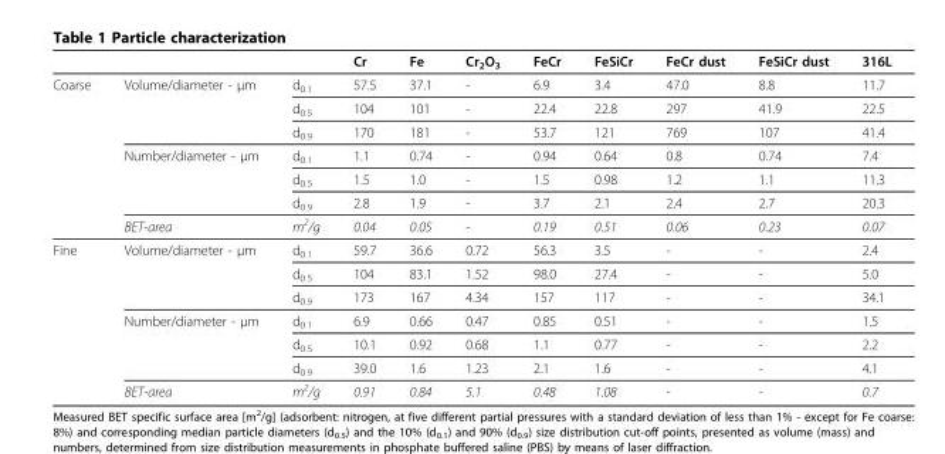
<table><thead><tr><td></td><td></td><td></td><td>Cr</td><td>Fe</td><td>Cr<sub>2</sub>O<sub>3</sub></td><td>FeCr</td><td>FeSiCr</td><td>FeCr dust</td><td>FeSiCr dust</td><td>316L</td></tr></thead><tbody><tr><td rowspan="7">Coarse</td><td>Volume/diameter - μm</td><td>d<sub>0.1</sub></td><td>57.5</td><td>37.1</td><td>-</td><td>6.9</td><td>3.4</td><td>47.0</td><td>8.8</td><td>11.7</td></tr><tr><td></td><td>d<sub>0.5</sub></td><td>104</td><td>101</td><td>-</td><td>22.4</td><td>22.8</td><td>297</td><td>41.9</td><td>22.5</td></tr><tr><td></td><td>d<sub>0.9</sub></td><td>170</td><td>181</td><td>-</td><td>53.7</td><td>121</td><td>769</td><td>107</td><td>41.4</td></tr><tr><td>Number/diameter - μm</td><td>d<sub>0.1</sub></td><td>1.1</td><td>0.74</td><td>-</td><td>0.94</td><td>0.64</td><td>0.8</td><td>0.74</td><td>7.4</td></tr><tr><td></td><td>d<sub>0.5</sub></td><td>1.5</td><td>1.0</td><td>-</td><td>1.5</td><td>0.98</td><td>1.2</td><td>1.1</td><td>11.3</td></tr><tr><td></td><td>d<sub>0.9</sub></td><td>2.8</td><td>1.9</td><td>-</td><td>3.7</td><td>2.1</td><td>2.4</td><td>2.7</td><td>20.3</td></tr><tr><td>BET-area</td><td>m<sup>2</sup>/g</td><td>0.04</td><td>0.05</td><td>-</td><td>0.19</td><td>0.51</td><td>0.06</td><td>0.23</td><td>0.07</td></tr><tr><td rowspan="7">Fine</td><td>Volume/diameter - μm</td><td>d<sub>0.1</sub></td><td>59.7</td><td>36.6</td><td>0.72</td><td>56.3</td><td>3.5</td><td>-</td><td>-</td><td>2.4</td></tr><tr><td></td><td>d<sub>0.5</sub></td><td>104</td><td>83.1</td><td>1.52</td><td>98.0</td><td>27.4</td><td>-</td><td>-</td><td>5.0</td></tr><tr><td></td><td>d<sub>0.9</sub></td><td>173</td><td>167</td><td>4.34</td><td>157</td><td>117</td><td>-</td><td>-</td><td>34.1</td></tr><tr><td>Number/diameter - μm</td><td>d<sub>0.1</sub></td><td>6.9</td><td>0.66</td><td>0.47</td><td>0.85</td><td>0.51</td><td>-</td><td>-</td><td>1.5</td></tr><tr><td></td><td>d<sub>0.5</sub></td><td>10.1</td><td>0.92</td><td>0.68</td><td>1.1</td><td>0.77</td><td>-</td><td>-</td><td>2.2</td></tr><tr><td></td><td>d<sub>0.9</sub></td><td>39.0</td><td>1.6</td><td>1.23</td><td>2.1</td><td>1.6</td><td>-</td><td>-</td><td>4.1</td></tr><tr><td>BET-area</td><td>m<sup>2</sup>/g</td><td>0.91</td><td>0.84</td><td>5.1</td><td>0.48</td><td>1.08</td><td>-</td><td>-</td><td>0.7</td></tr></tbody></table>